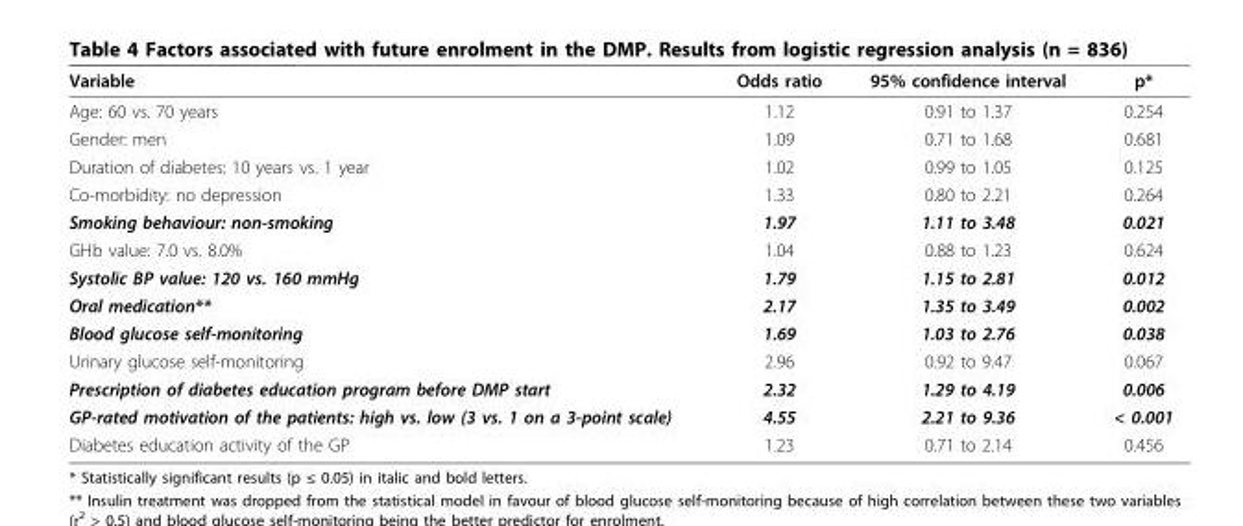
<table><thead><tr><td>Variable</td><td>Odds ratio</td><td>95% confidence interval</td><td>p*</td></tr></thead><tbody><tr><td>Age: 60 vs. 70 years</td><td>1.12</td><td>0.91 to 1.37</td><td>0.254</td></tr><tr><td>Gender: men</td><td>1.09</td><td>0.71 to 1.68</td><td>0.681</td></tr><tr><td>Duration of diabetes: 10 years vs. 1 year</td><td>1.02</td><td>0.99 to 1.05</td><td>0.125</td></tr><tr><td>Co-morbidity: no depression</td><td>1.33</td><td>0.80 to 2.21</td><td>0.264</td></tr><tr><td>Smoking behaviour: non-smoking</td><td>1.97</td><td>1.11 to 3.48</td><td>0.021</td></tr><tr><td>GHb value: 7.0 vs. 8.0%</td><td>1.04</td><td>0.88 to 1.23</td><td>0.624</td></tr><tr><td>Systolic BP value: 120 vs. 160 mmHg</td><td>1.79</td><td>1.15 to 2.81</td><td>0.012</td></tr><tr><td>Oral medication**</td><td>2.17</td><td>1.35 to 3.49</td><td>0.002</td></tr><tr><td>Blood glucose self-monitoring</td><td>1.69</td><td>1.03 to 2.76</td><td>0.038</td></tr><tr><td>Urinary glucose self-monitoring</td><td>2.96</td><td>0.92 to 9.47</td><td>0.067</td></tr><tr><td>Prescription of diabetes education program before DMP start</td><td>2.32</td><td>1.29 to 4.19</td><td>0.006</td></tr><tr><td>GP-rated motivation of the patients: high vs. low (3 vs. 1 on a 3-point scale)</td><td>4.55</td><td>2.21 to 9.36</td><td>&lt; 0.001</td></tr><tr><td>Diabetes education activity of the GP</td><td>1.23</td><td>0.71 to 2.14</td><td>0.456</td></tr></tbody></table>